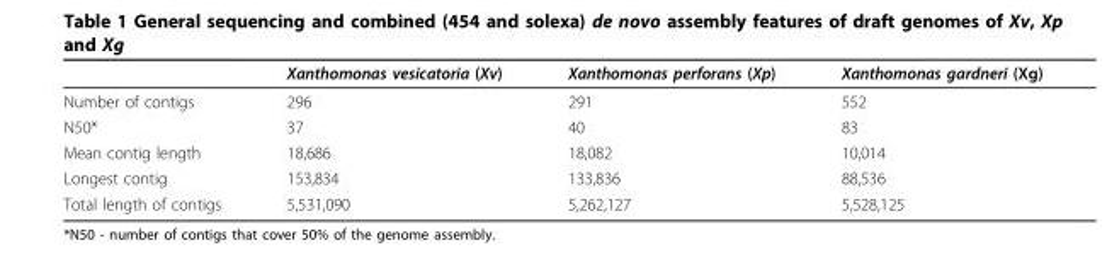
<table><thead><tr><td></td><td>Xanthomonas vesicatoria (Xv)</td><td>Xanthomonas perforans (Xp)</td><td>Xanthomonas gardneri (Xg)</td></tr></thead><tbody><tr><td>Number of contigs</td><td>296</td><td>291</td><td>552</td></tr><tr><td>N50*</td><td>37</td><td>40</td><td>83</td></tr><tr><td>Mean contig length</td><td>18,686</td><td>18,082</td><td>10,014</td></tr><tr><td>Longest contig</td><td>153,834</td><td>133,836</td><td>88,536</td></tr><tr><td>Total length of contigs</td><td>5,531,090</td><td>5,262,127</td><td>5,528,125</td></tr></tbody></table>